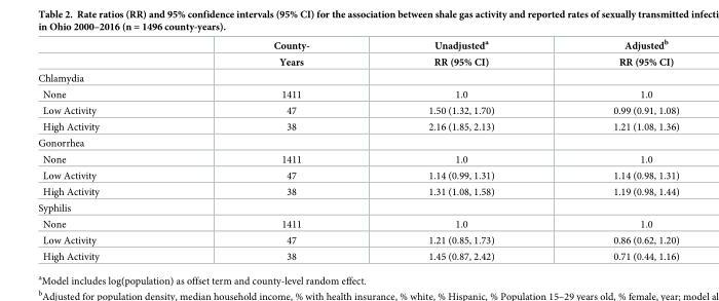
<table><thead><tr><td rowspan="2"></td><td rowspan="2">County- Years</td><td rowspan="2">Unadjusted<sup>a</sup> RR (95% CI)</td><td rowspan="2">Adjusted<sup>b</sup> RR (95% CI)</td></tr><tr></tr></thead><tbody><tr><td colspan="4">Chlamydia</td></tr><tr><td>None</td><td>1411</td><td>1.0</td><td>1.0</td></tr><tr><td>Low Activity</td><td>47</td><td>1.50 (1.32, 1.70)</td><td>0.99 (0.91, 1.08)</td></tr><tr><td>High Activity</td><td>38</td><td>2.16 (1.85, 2.13)</td><td>1.21 (1.08, 1.36)</td></tr><tr><td colspan="4">Gonorrhea</td></tr><tr><td>None</td><td>1411</td><td>1.0</td><td>1.0</td></tr><tr><td>Low Activity</td><td>47</td><td>1.14 (0.99, 1.31)</td><td>1.14 (0.98, 1.31)</td></tr><tr><td>High Activity</td><td>38</td><td>1.31 (1.08, 1.58)</td><td>1.19 (0.98, 1.44)</td></tr><tr><td colspan="4">Syphilis</td></tr><tr><td>None</td><td>1411</td><td>1.0</td><td>1.0</td></tr><tr><td>Low Activity</td><td>47</td><td>1.21 (0.85, 1.73)</td><td>0.86 (0.62, 1.20)</td></tr><tr><td>High Activity</td><td>38</td><td>1.45 (0.87, 2.42)</td><td>0.71 (0.44, 1.16)</td></tr></tbody></table>